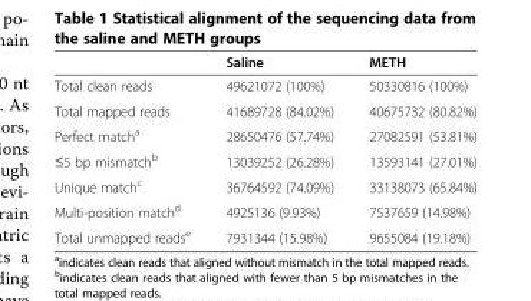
<table><thead><tr><td></td><td>Saline</td><td>METH</td></tr></thead><tbody><tr><td>Total clean reads</td><td>49621072 (100%)</td><td>50330816 (100%)</td></tr><tr><td>Total mapped reads</td><td>41689728 (84.02%)</td><td>40675732 (80.82%)</td></tr><tr><td>Perfect match<sup>a</sup></td><td>28650476 (57.74%)</td><td>27082591 (53.81%)</td></tr><tr><td>≤5 bp mismatch<sup>b</sup></td><td>13039252 (26.28%)</td><td>13593141 (27.01%)</td></tr><tr><td>Unique match<sup>c</sup></td><td>36764592 (74.09%)</td><td>33138073 (65.84%)</td></tr><tr><td>Multi-position match<sup>d</sup></td><td>4925136 (9.93%)</td><td>7537659 (14.98%)</td></tr><tr><td>Total unmapped reads<sup>e</sup></td><td>7931344 (15.98%)</td><td>9655084 (19.18%)</td></tr></tbody></table>